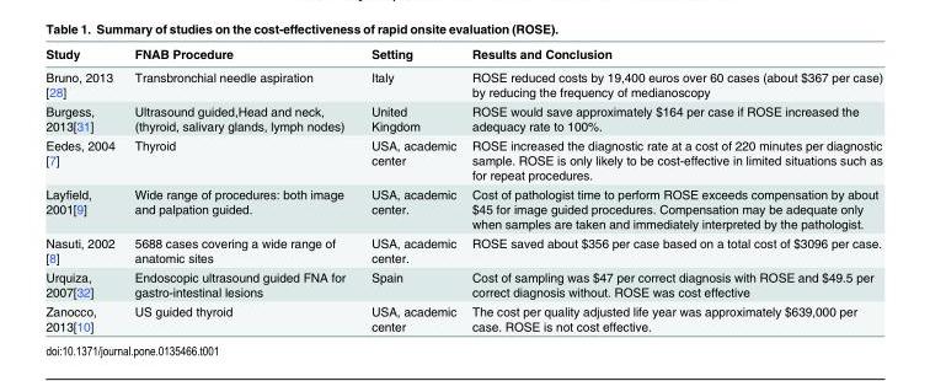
<table><thead><tr><td>Study</td><td>FNAB Procedure</td><td>Setting</td><td>Results and Conclusion</td></tr></thead><tbody><tr><td>Bruno, 2013 [28]</td><td>Transbronchial needle aspiration</td><td>Italy</td><td>ROSE reduced costs by 19,400 euros over 60 cases (about $367 per case) by reducing the frequency of medianoscopy</td></tr><tr><td>Burgess, 2013[31]</td><td>Ultrasound guided,Head and neck, (thyroid, salivary glands, lymph nodes)</td><td>United Kingdom</td><td>ROSE would save approximately $164 per case if ROSE increased the adequacy rate to 100%.</td></tr><tr><td>Eedes, 2004 [7]</td><td>Thyroid</td><td>USA, academic center</td><td>ROSE increased the diagnostic rate at a cost of 220 minutes per diagnostic sample. ROSE is only likely to be cost-effective in limited situations such as for repeat procedures.</td></tr><tr><td>Layfield, 2001[9]</td><td>Wide range of procedures: both image and palpation guided.</td><td>USA, academic center.</td><td>Cost of pathologist time to perform ROSE exceeds compensation by about $45 for image guided procedures. Compensation may be adequate only when samples are taken and immediately interpreted by the pathologist.</td></tr><tr><td>Nasuti, 2002 [8]</td><td>5688 cases covering a wide range of anatomic sites</td><td>USA, academic center.</td><td>ROSE saved about $356 per case based on a total cost of $3096 per case.</td></tr><tr><td>Urquiza, 2007[32]</td><td>Endoscopic ultrasound guided FNA for gastro-intestinal lesions</td><td>Spain</td><td>Cost of sampling was $47 per correct diagnosis with ROSE and $49.5 per correct diagnosis without. ROSE was cost effective</td></tr><tr><td>Zanocco, 2013[10]</td><td>US guided thyroid</td><td>USA, academic center</td><td>The cost per quality adjusted life year was approximately $639,000 per case. ROSE is not cost effective.</td></tr></tbody></table>